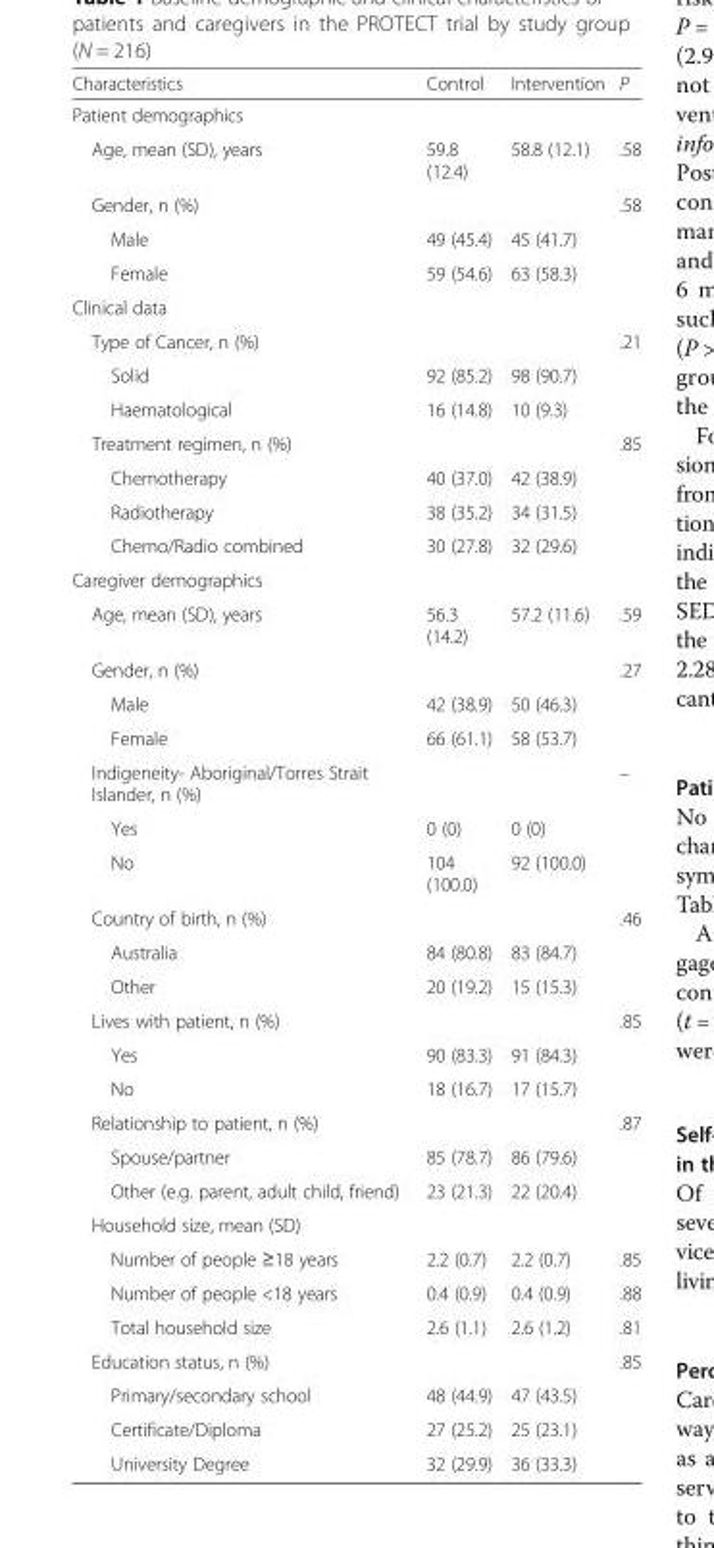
<table><thead><tr><td>Characteristics</td><td>Control</td><td>Intervention</td><td>P</td></tr></thead><tbody><tr><td colspan="4">Patient demographics</td></tr><tr><td>Age, mean (SD), years</td><td>59.8 (12.4)</td><td>58.8 (12.1)</td><td>.58</td></tr><tr><td>Gender, n (%)</td><td></td><td></td><td>.58</td></tr><tr><td>Male</td><td>49 (45.4)</td><td>45 (41.7)</td><td></td></tr><tr><td>Female</td><td>59 (54.6)</td><td>63 (58.3)</td><td></td></tr><tr><td colspan="4">Clinical data</td></tr><tr><td>Type of Cancer, n (%)</td><td></td><td></td><td>.21</td></tr><tr><td>Solid</td><td>92 (85.2)</td><td>98 (90.7)</td><td></td></tr><tr><td>Haematological</td><td>16 (14.8)</td><td>10 (9.3)</td><td></td></tr><tr><td>Treatment regimen, n (%)</td><td></td><td></td><td>.85</td></tr><tr><td>Chemotherapy</td><td>40 (37.0)</td><td>42 (38.9)</td><td></td></tr><tr><td>Radiotherapy</td><td>38 (35.2)</td><td>34 (31.5)</td><td></td></tr><tr><td>Chemo/Radio combined</td><td>30 (27.8)</td><td>32 (29.6)</td><td></td></tr><tr><td colspan="4">Caregiver demographics</td></tr><tr><td>Age, mean (SD), years</td><td>56.3 (14.2)</td><td>57.2 (11.6)</td><td>.59</td></tr><tr><td>Gender, n (%)</td><td></td><td></td><td>.27</td></tr><tr><td>Male</td><td>42 (38.9)</td><td>50 (46.3)</td><td></td></tr><tr><td>Female</td><td>66 (61.1)</td><td>58 (53.7)</td><td></td></tr><tr><td>Indigeneity- Aboriginal/Torres Strait Islander, n (%)</td><td></td><td></td><td>–</td></tr><tr><td>Yes</td><td>0 (0)</td><td>0 (0)</td><td></td></tr><tr><td>No</td><td>104 (100.0)</td><td>92 (100.0)</td><td></td></tr><tr><td>Country of birth, n (%)</td><td></td><td></td><td>.46</td></tr><tr><td>Australia</td><td>84 (80.8)</td><td>83 (84.7)</td><td></td></tr><tr><td>Other</td><td>20 (19.2)</td><td>15 (15.3)</td><td></td></tr><tr><td>Lives with patient, n (%)</td><td></td><td></td><td>.85</td></tr><tr><td>Yes</td><td>90 (83.3)</td><td>91 (84.3)</td><td></td></tr><tr><td>No</td><td>18 (16.7)</td><td>17 (15.7)</td><td></td></tr><tr><td>Relationship to patient, n (%)</td><td></td><td></td><td>.87</td></tr><tr><td>Spouse/partner</td><td>85 (78.7)</td><td>86 (79.6)</td><td></td></tr><tr><td>Other (e.g. parent, adult child, friend)</td><td>23 (21.3)</td><td>22 (20.4)</td><td></td></tr><tr><td colspan="4">Household size, mean (SD)</td></tr><tr><td>Number of people ≥18 years</td><td>2.2 (0.7)</td><td>2.2 (0.7)</td><td>.85</td></tr><tr><td>Number of people &lt;18 years</td><td>0.4 (0.9)</td><td>0.4 (0.9)</td><td>.88</td></tr><tr><td>Total household size</td><td>2.6 (1.1)</td><td>2.6 (1.2)</td><td>.81</td></tr><tr><td>Education status, n (%)</td><td></td><td></td><td>.85</td></tr><tr><td>Primary/secondary school</td><td>48 (44.9)</td><td>47 (43.5)</td><td></td></tr><tr><td>Certificate/Diploma</td><td>27 (25.2)</td><td>25 (23.1)</td><td></td></tr><tr><td>University Degree</td><td>32 (29.9)</td><td>36 (33.3)</td><td></td></tr></tbody></table>